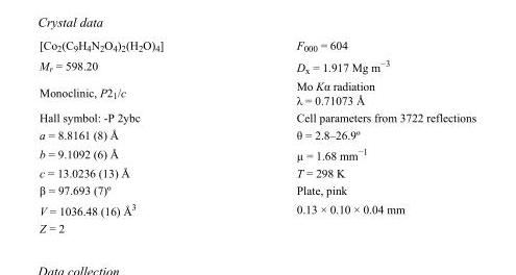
<table><tbody><tr><td>[Co<sub>2</sub>(C<sub>9</sub>H<sub>4</sub>N<sub>2</sub>O<sub>4</sub>)<sub>2</sub>(H<sub>2</sub>O)<sub>4</sub>]</td><td>F000 = 604</td></tr><tr><td>M<sub>r</sub> = 598.20</td><td>D<sub>x</sub> = 1.917 Mg m<sup>−3</sup></td></tr><tr><td>Monoclinic, P2<sub>1</sub>/c</td><td>Mo Kα radiation λ = 0.71073 Å</td></tr><tr><td>Hall symbol: -P 2ybc</td><td>Cell parameters from 3722 reflections</td></tr><tr><td>a = 8.8161 (8) Å</td><td>θ = 2.8–26.9º</td></tr><tr><td>b = 9.1092 (6) Å</td><td>µ = 1.68 mm<sup>−1</sup></td></tr><tr><td>c = 13.0236 (13) Å</td><td>T = 298 K</td></tr><tr><td>β = 97.693 (7)º</td><td>Plate, pink</td></tr><tr><td>V = 1036.48 (16) Å<sup>3</sup></td><td>0.13 × 0.10 × 0.04 mm</td></tr><tr><td>Z = 2</td><td></td></tr></tbody></table>